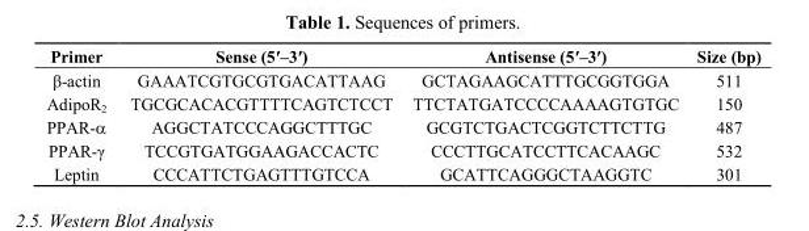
<table><thead><tr><td>Primer</td><td>Sense (5′–3′)</td><td>Antisense (5′–3′)</td><td>Size (bp)</td></tr></thead><tbody><tr><td>β-actin</td><td>GAAATCGTGCGTGACATTAAG</td><td>GCTAGAAGCATTTGCGGTGGA</td><td>511</td></tr><tr><td>AdipoR<sub>2</sub></td><td>TGCGCACACGTTTTCAGTCTCCT</td><td>TTCTATGATCCCCAAAAGTGTGC</td><td>150</td></tr><tr><td>PPAR-α</td><td>AGGCTATCCCAGGCTTTGC</td><td>GCGTCTGACTCGGTCTTCTTG</td><td>487</td></tr><tr><td>PPAR-γ</td><td>TCCGTGATGGAAGACCACTC</td><td>CCCTTGCATCCTTCACAAGC</td><td>532</td></tr><tr><td>Leptin</td><td>CCCATTCTGAGTTTGTCCA</td><td>GCATTCAGGGCTAAGGTC</td><td>301</td></tr></tbody></table>